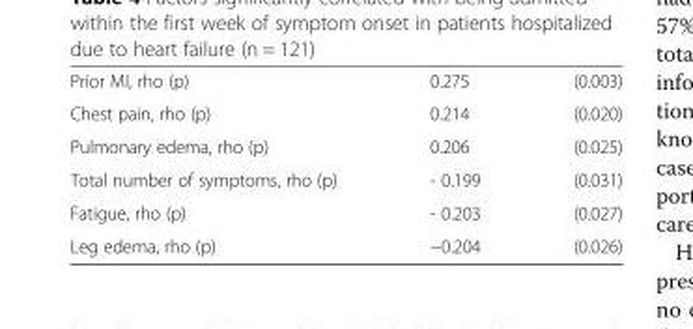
<table><tbody><tr><td>Prior MI, rho (p)</td><td>0.275</td><td>(0.003)</td></tr><tr><td>Chest pain, rho (p)</td><td>0.214</td><td>(0.020)</td></tr><tr><td>Pulmonary edema, rho (p)</td><td>0.206</td><td>(0.025)</td></tr><tr><td>Total number of symptoms, rho (p)</td><td>- 0.199</td><td>(0.031)</td></tr><tr><td>Fatigue, rho (p)</td><td>- 0.203</td><td>(0.027)</td></tr><tr><td>Leg edema, rho (p)</td><td>−0.204</td><td>(0.026)</td></tr></tbody></table>